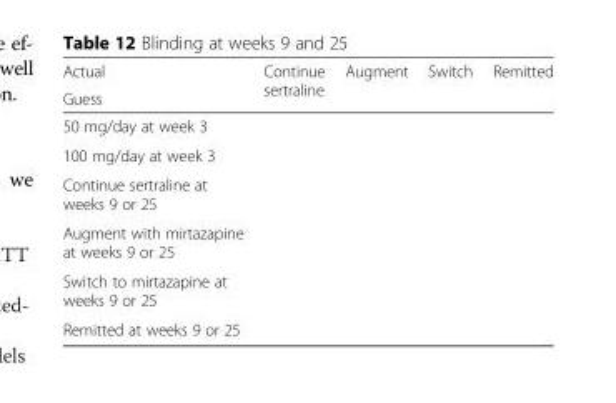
<table><thead><tr><td rowspan="2">Actual Guess</td><td rowspan="2">Continue sertraline</td><td rowspan="2">Augment</td><td rowspan="2">Switch</td><td rowspan="2">Remitted</td></tr><tr></tr></thead><tbody><tr><td colspan="5">50 mg/day at week 3</td></tr><tr><td colspan="5">100 mg/day at week 3</td></tr><tr><td colspan="5">Continue sertraline at weeks 9 or 25</td></tr><tr><td colspan="5">Augment with mirtazapine at weeks 9 or 25</td></tr><tr><td colspan="5">Switch to mirtazapine at weeks 9 or 25</td></tr><tr><td>Remitted at weeks 9 or 25</td><td></td><td></td><td></td><td></td></tr></tbody></table>